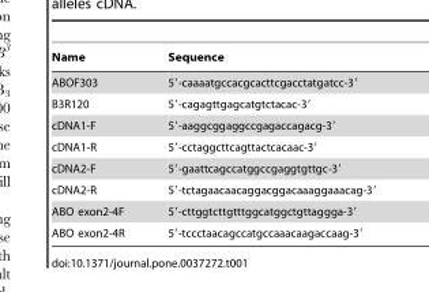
<table><thead><tr><td>Name</td><td>Sequence</td></tr></thead><tbody><tr><td>ABOF303</td><td>5′-caaaatgccacgcacttcgacctatgatcc-3′</td></tr><tr><td>B3R120</td><td>5′-cagagttgagcatgtctacac-3′</td></tr><tr><td>cDNA1-F</td><td>5′-aaggcggaggccgagaccagacg-3′</td></tr><tr><td>cDNA1-R</td><td>5′-cctaggcttcagttactcacaac-3′</td></tr><tr><td>cDNA2-F</td><td>5′-gaattcagccatggccgaggtgttgc-3′</td></tr><tr><td>cDNA2-R</td><td>5′-tctagaacaacaggacggacaaaggaaacag-3′</td></tr><tr><td>ABO exon2-4F</td><td>5′-cttggtcttgtttggcatggctgttaggga-3′</td></tr><tr><td>ABO exon2-4R</td><td>5′-tccctaacagccatgccaaacaagaccaag-3′</td></tr></tbody></table>